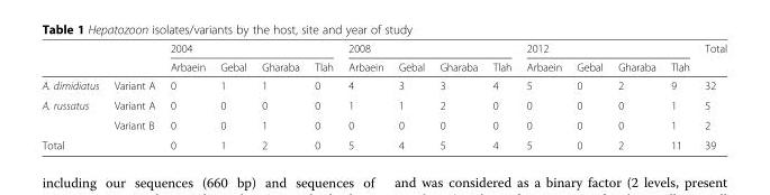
<table><thead><tr><td rowspan="2"></td><td rowspan="2"></td><td colspan="4">2004</td><td colspan="4">2008</td><td colspan="4">2012</td><td rowspan="2">Total</td></tr><tr><td>Arbaein</td><td>Gebal</td><td>Gharaba</td><td>Tlah</td><td>Arbaein</td><td>Gebal</td><td>Gharaba</td><td>Tlah</td><td>Arbaein</td><td>Gebal</td><td>Gharaba</td><td>Tlah</td></tr></thead><tbody><tr><td>A. dimidiatus</td><td>Variant A</td><td>0</td><td>1</td><td>1</td><td>0</td><td>4</td><td>3</td><td>3</td><td>4</td><td>5</td><td>0</td><td>2</td><td>9</td><td>32</td></tr><tr><td rowspan="2">A. russatus</td><td>Variant A</td><td>0</td><td>0</td><td>0</td><td>0</td><td>1</td><td>1</td><td>2</td><td>0</td><td>0</td><td>0</td><td>0</td><td>1</td><td>5</td></tr><tr><td>Variant B</td><td>0</td><td>0</td><td>1</td><td>0</td><td>0</td><td>0</td><td>0</td><td>0</td><td>0</td><td>0</td><td>0</td><td>1</td><td>2</td></tr><tr><td colspan="2">Total</td><td>0</td><td>1</td><td>2</td><td>0</td><td>5</td><td>4</td><td>5</td><td>4</td><td>5</td><td>0</td><td>2</td><td>11</td><td>39</td></tr></tbody></table>